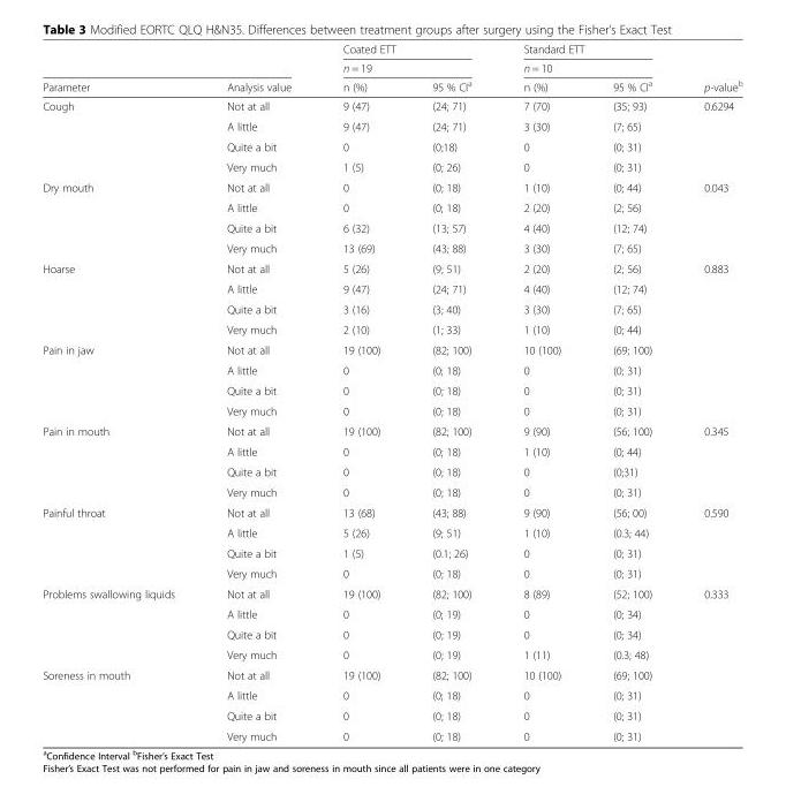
<table><thead><tr><td rowspan="3">Parameter</td><td rowspan="3">Analysis value</td><td rowspan="2" colspan="2">Coated ETT n = 19</td><td rowspan="2" colspan="2">Standard ETT n = 10</td><td rowspan="3">p-value<sup>b</sup></td></tr><tr></tr><tr><td>n (%)</td><td>95 % CI<sup>a</sup></td><td>n (%)</td><td>95 % CI<sup>a</sup></td></tr></thead><tbody><tr><td rowspan="4">Cough</td><td>Not at all</td><td>9 (47)</td><td>(24; 71)</td><td>7 (70)</td><td>(35; 93)</td><td rowspan="4">0.6294</td></tr><tr><td>A little</td><td>9 (47)</td><td>(24; 71)</td><td>3 (30)</td><td>(7; 65)</td></tr><tr><td>Quite a bit</td><td>0</td><td>(0;18)</td><td>0</td><td>(0; 31)</td></tr><tr><td>Very much</td><td>1 (5)</td><td>(0; 26)</td><td>0</td><td>(0; 31)</td></tr><tr><td rowspan="4">Dry mouth</td><td>Not at all</td><td>0</td><td>(0; 18)</td><td>1 (10)</td><td>(0; 44)</td><td rowspan="4">0.043</td></tr><tr><td>A little</td><td>0</td><td>(0; 18)</td><td>2 (20)</td><td>(2; 56)</td></tr><tr><td>Quite a bit</td><td>6 (32)</td><td>(13; 57)</td><td>4 (40)</td><td>(12; 74)</td></tr><tr><td>Very much</td><td>13 (69)</td><td>(43; 88)</td><td>3 (30)</td><td>(7; 65)</td></tr><tr><td rowspan="4">Hoarse</td><td>Not at all</td><td>5 (26)</td><td>(9; 51)</td><td>2 (20)</td><td>(2; 56)</td><td rowspan="4">0.883</td></tr><tr><td>A little</td><td>9 (47)</td><td>(24; 71)</td><td>4 (40)</td><td>(12; 74)</td></tr><tr><td>Quite a bit</td><td>3 (16)</td><td>(3; 40)</td><td>3 (30)</td><td>(7; 65)</td></tr><tr><td>Very much</td><td>2 (10)</td><td>(1; 33)</td><td>1 (10)</td><td>(0; 44)</td></tr><tr><td rowspan="4">Pain in jaw</td><td>Not at all</td><td>19 (100)</td><td>(82; 100)</td><td>10 (100)</td><td>(69; 100)</td><td rowspan="4"></td></tr><tr><td>A little</td><td>0</td><td>(0; 18)</td><td>0</td><td>(0; 31)</td></tr><tr><td>Quite a bit</td><td>0</td><td>(0; 18)</td><td>0</td><td>(0; 31)</td></tr><tr><td>Very much</td><td>0</td><td>(0; 18)</td><td>0</td><td>(0; 31)</td></tr><tr><td rowspan="4">Pain in mouth</td><td>Not at all</td><td>19 (100)</td><td>(82; 100)</td><td>9 (90)</td><td>(56; 100)</td><td rowspan="4">0.345</td></tr><tr><td>A little</td><td>0</td><td>(0; 18)</td><td>1 (10)</td><td>(0; 44)</td></tr><tr><td>Quite a bit</td><td>0</td><td>(0; 18)</td><td>0</td><td>(0;31)</td></tr><tr><td>Very much</td><td>0</td><td>(0; 18)</td><td>0</td><td>(0; 31)</td></tr><tr><td rowspan="4">Painful throat</td><td>Not at all</td><td>13 (68)</td><td>(43; 88)</td><td>9 (90)</td><td>(56; 00)</td><td rowspan="4">0.590</td></tr><tr><td>A little</td><td>5 (26)</td><td>(9; 51)</td><td>1 (10)</td><td>(0.3; 44)</td></tr><tr><td>Quite a bit</td><td>1 (5)</td><td>(0.1; 26)</td><td>0</td><td>(0; 31)</td></tr><tr><td>Very much</td><td>0</td><td>(0; 18)</td><td>0</td><td>(0; 31)</td></tr><tr><td rowspan="4">Problems swallowing liquids</td><td>Not at all</td><td>19 (100)</td><td>(82; 100)</td><td>8 (89)</td><td>(52; 100)</td><td rowspan="4">0.333</td></tr><tr><td>A little</td><td>0</td><td>(0; 19)</td><td>0</td><td>(0; 34)</td></tr><tr><td>Quite a bit</td><td>0</td><td>(0; 19)</td><td>0</td><td>(0; 34)</td></tr><tr><td>Very much</td><td>0</td><td>(0; 19)</td><td>1 (11)</td><td>(0.3; 48)</td></tr><tr><td rowspan="4">Soreness in mouth</td><td>Not at all</td><td>19 (100)</td><td>(82; 100)</td><td>10 (100)</td><td>(69; 100)</td><td rowspan="4"></td></tr><tr><td>A little</td><td>0</td><td>(0; 18)</td><td>0</td><td>(0; 31)</td></tr><tr><td>Quite a bit</td><td>0</td><td>(0; 18)</td><td>0</td><td>(0; 31)</td></tr><tr><td>Very much</td><td>0</td><td>(0; 18)</td><td>0</td><td>(0; 31)</td></tr></tbody></table>